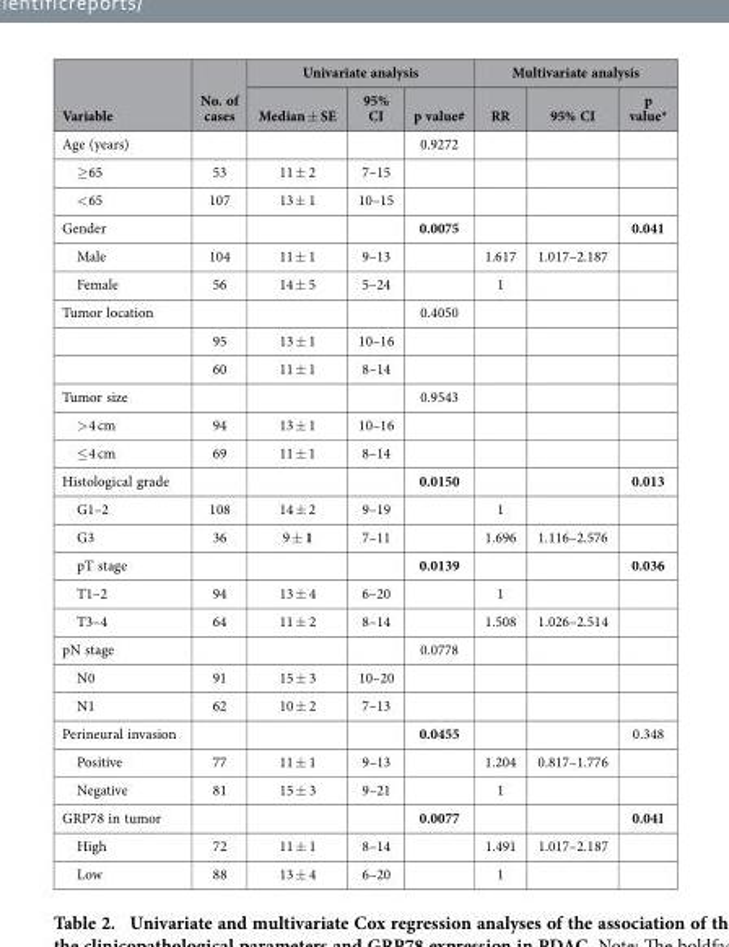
<table><thead><tr><td rowspan="2">Variable</td><td rowspan="2">No. of cases</td><td colspan="3">Univariate analysis</td><td colspan="3">Multivariate analysis</td></tr><tr><td>Median ± SE</td><td>95% CI</td><td>p value#</td><td>RR</td><td>95% CI</td><td>p value*</td></tr></thead><tbody><tr><td>Age (years)</td><td></td><td></td><td></td><td>0.9272</td><td></td><td></td><td></td></tr><tr><td>≥ 65</td><td>53</td><td>11 ± 2</td><td>7–15</td><td></td><td></td><td></td><td></td></tr><tr><td>&lt; 65</td><td>107</td><td>13 ± 1</td><td>10–15</td><td></td><td></td><td></td><td></td></tr><tr><td>Gender</td><td></td><td></td><td></td><td>0.0075</td><td></td><td></td><td>0.041</td></tr><tr><td>Male</td><td>104</td><td>11 ± 1</td><td>9–13</td><td></td><td>1.617</td><td>1.017–2.187</td><td></td></tr><tr><td>Female</td><td>56</td><td>14 ± 5</td><td>5–24</td><td></td><td>1</td><td></td><td></td></tr><tr><td rowspan="3">Tumor location</td><td></td><td></td><td></td><td>0.4050</td><td></td><td></td><td></td></tr><tr><td>95</td><td>13 ± 1</td><td>10–16</td><td></td><td></td><td></td><td></td></tr><tr><td>60</td><td>11 ± 1</td><td>8–14</td><td></td><td></td><td></td><td></td></tr><tr><td>Tumor size</td><td></td><td></td><td></td><td>0.9543</td><td></td><td></td><td></td></tr><tr><td>&gt; 4 cm</td><td>94</td><td>13 ± 1</td><td>10–16</td><td></td><td></td><td></td><td></td></tr><tr><td>≤ 4 cm</td><td>69</td><td>11 ± 1</td><td>8–14</td><td></td><td></td><td></td><td></td></tr><tr><td>Histological grade</td><td></td><td></td><td></td><td>0.0150</td><td></td><td></td><td>0.013</td></tr><tr><td>G1–2</td><td>108</td><td>14 ± 2</td><td>9–19</td><td></td><td>1</td><td></td><td></td></tr><tr><td>G3</td><td>36</td><td>9 ± 1</td><td>7–11</td><td></td><td>1.696</td><td>1.116–2.576</td><td></td></tr><tr><td>pT stage</td><td></td><td></td><td></td><td>0.0139</td><td></td><td></td><td>0.036</td></tr><tr><td>T1–2</td><td>94</td><td>13 ± 4</td><td>6–20</td><td></td><td>1</td><td></td><td></td></tr><tr><td>T3–4</td><td>64</td><td>11 ± 2</td><td>8–14</td><td></td><td>1.508</td><td>1.026–2.514</td><td></td></tr><tr><td>pN stage</td><td></td><td></td><td></td><td>0.0778</td><td></td><td></td><td></td></tr><tr><td>N0</td><td>91</td><td>15 ± 3</td><td>10–20</td><td></td><td></td><td></td><td></td></tr><tr><td>N1</td><td>62</td><td>10 ± 2</td><td>7–13</td><td></td><td></td><td></td><td></td></tr><tr><td>Perineural invasion</td><td></td><td></td><td></td><td>0.0455</td><td></td><td></td><td>0.348</td></tr><tr><td>Positive</td><td>77</td><td>11 ± 1</td><td>9–13</td><td></td><td>1.204</td><td>0.817–1.776</td><td></td></tr><tr><td>Negative</td><td>81</td><td>15 ± 3</td><td>9–21</td><td></td><td>1</td><td></td><td></td></tr><tr><td>GRP78 in tumor</td><td></td><td></td><td></td><td>0.0077</td><td></td><td></td><td>0.041</td></tr><tr><td>High</td><td>72</td><td>11 ± 1</td><td>8–14</td><td></td><td>1.491</td><td>1.017–2.187</td><td></td></tr><tr><td>Low</td><td>88</td><td>13 ± 4</td><td>6–20</td><td></td><td>1</td><td></td><td></td></tr></tbody></table>